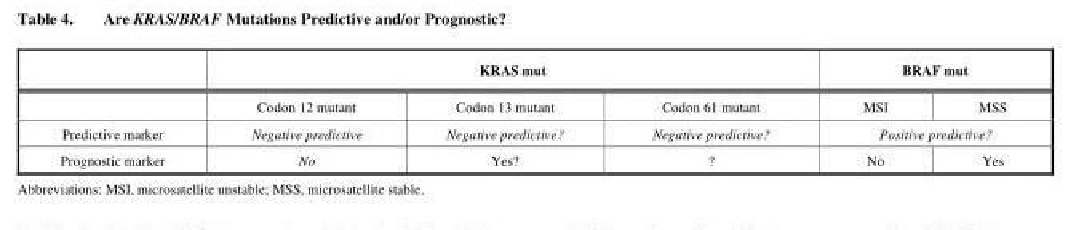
<table><thead><tr><td rowspan="2"></td><td colspan="3">KRAS mut</td><td colspan="2">BRAF mut</td></tr><tr><td>Codon 12 mutant</td><td>Codon 13 mutant</td><td>Codon 61 mutant</td><td>MSI</td><td>MSS</td></tr></thead><tbody><tr><td>Predictive marker</td><td>Negative predictive</td><td>Negative predictive?</td><td>Negative predictive?</td><td colspan="2">Positive predictive?</td></tr><tr><td>Prognostic marker</td><td>No</td><td>Yes?</td><td>?</td><td>No</td><td>Yes</td></tr></tbody></table>